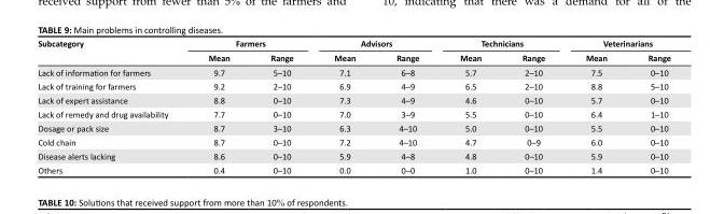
<table><thead><tr><td rowspan="2">Subcategory</td><td colspan="2">Farmers</td><td colspan="2">Advisors</td><td colspan="2">Technicians</td><td colspan="2">Veterinarians</td></tr><tr><td>Mean</td><td>Range</td><td>Mean</td><td>Range</td><td>Mean</td><td>Range</td><td>Mean</td><td>Range</td></tr></thead><tbody><tr><td>Lack of information for farmers</td><td>9.7</td><td>5–10</td><td>7.1</td><td>6–8</td><td>5.7</td><td>2–10</td><td>7.5</td><td>0–10</td></tr><tr><td>Lack of training for farmers</td><td>9.2</td><td>2–10</td><td>6.9</td><td>4–9</td><td>6.5</td><td>2–10</td><td>8.8</td><td>5–10</td></tr><tr><td>Lack of expert assistance</td><td>8.8</td><td>0–10</td><td>7.3</td><td>4–9</td><td>4.6</td><td>0–10</td><td>5.7</td><td>0–10</td></tr><tr><td>Lack of remedy and drug availability</td><td>7.7</td><td>0–10</td><td>7.0</td><td>3–9</td><td>5.5</td><td>0–10</td><td>6.4</td><td>1–10</td></tr><tr><td>Dosage or pack size</td><td>8.7</td><td>3–10</td><td>6.3</td><td>4–10</td><td>5.0</td><td>0–10</td><td>5.5</td><td>0–10</td></tr><tr><td>Cold chain</td><td>8.7</td><td>0–10</td><td>7.2</td><td>4–10</td><td>4.7</td><td>0–9</td><td>6.0</td><td>0–10</td></tr><tr><td>Disease alerts lacking</td><td>8.6</td><td>0–10</td><td>5.9</td><td>4–8</td><td>4.8</td><td>0–10</td><td>5.9</td><td>0–10</td></tr><tr><td>Others</td><td>0.4</td><td>0–10</td><td>0.0</td><td>0–0</td><td>1.0</td><td>0–10</td><td>1.4</td><td>0–10</td></tr></tbody></table>